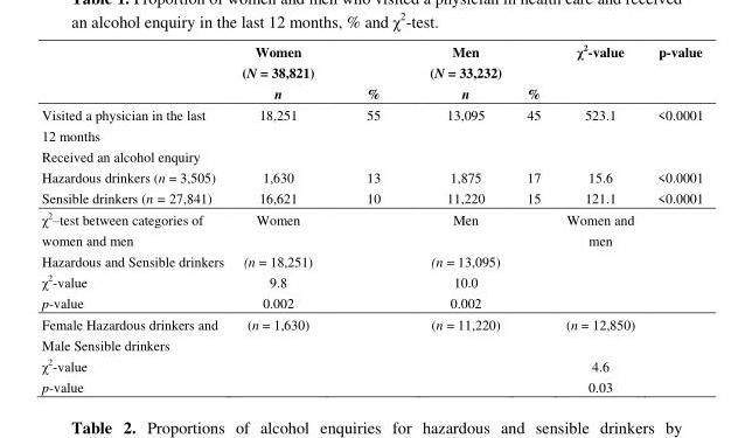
<table><thead><tr><td></td><td>Women (N = 38,821) n</td><td>%</td><td>Men (N = 33,232) n</td><td>%</td><td>χ<sup>2</sup>-value</td><td>p-value</td></tr></thead><tbody><tr><td>Visited a physician in the last 12 months</td><td>18,251</td><td>55</td><td>13,095</td><td>45</td><td>523.1</td><td>&lt;0.0001</td></tr><tr><td colspan="7">Received an alcohol enquiry</td></tr><tr><td>Hazardous drinkers (n = 3,505)</td><td>1,630</td><td>13</td><td>1,875</td><td>17</td><td>15.6</td><td>&lt;0.0001</td></tr><tr><td>Sensible drinkers (n = 27,841)</td><td>16,621</td><td>10</td><td>11,220</td><td>15</td><td>121.1</td><td>&lt;0.0001</td></tr><tr><td>χ<sup>2</sup>–test between categories of women and men</td><td>Women</td><td></td><td>Men</td><td></td><td>Women and men</td><td></td></tr><tr><td>Hazardous and Sensible drinkers</td><td>(n = 18,251)</td><td></td><td>(n = 13,095)</td><td></td><td></td><td></td></tr><tr><td>χ<sup>2</sup>-value</td><td>9.8</td><td></td><td>10.0</td><td></td><td></td><td></td></tr><tr><td>p-value</td><td>0.002</td><td></td><td>0.002</td><td></td><td></td><td></td></tr><tr><td>Female Hazardous drinkers and Male Sensible drinkers</td><td>(n = 1,630)</td><td></td><td>(n = 11,220)</td><td></td><td>(n = 12,850)</td><td></td></tr><tr><td>χ<sup>2</sup>-value</td><td></td><td></td><td></td><td></td><td>4.6</td><td></td></tr><tr><td>p-value</td><td></td><td></td><td></td><td></td><td>0.03</td><td></td></tr></tbody></table>